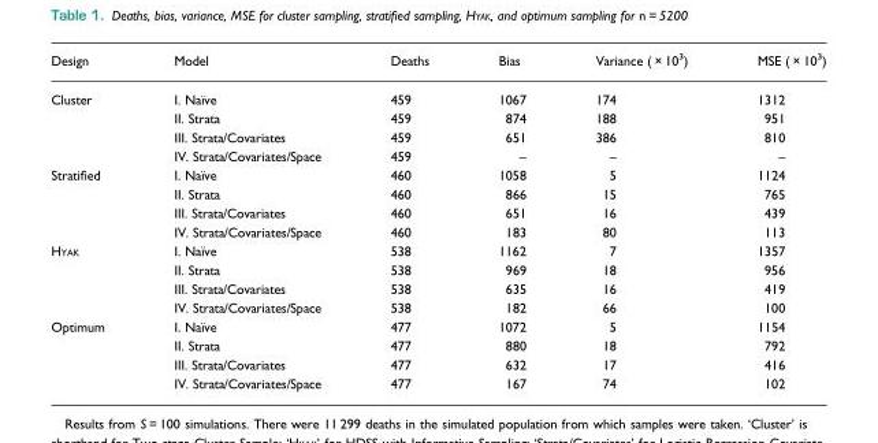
<table><thead><tr><td>Design</td><td>Model</td><td>Deaths</td><td>Bias</td><td>Variance ( × 10<sup>3</sup>)</td><td>MSE ( × 10<sup>3</sup>)</td></tr></thead><tbody><tr><td rowspan="4">Cluster</td><td>I. Naïve</td><td>459</td><td>1067</td><td>174</td><td>1312</td></tr><tr><td>II. Strata</td><td>459</td><td>874</td><td>188</td><td>951</td></tr><tr><td>III. Strata/Covariates</td><td>459</td><td>651</td><td>386</td><td>810</td></tr><tr><td>IV. Strata/Covariates/Space</td><td>459</td><td>–</td><td>–</td><td>–</td></tr><tr><td rowspan="4">Stratified</td><td>I. Naïve</td><td>460</td><td>1058</td><td>5</td><td>1124</td></tr><tr><td>II. Strata</td><td>460</td><td>866</td><td>15</td><td>765</td></tr><tr><td>III. Strata/Covariates</td><td>460</td><td>651</td><td>16</td><td>439</td></tr><tr><td>IV. Strata/Covariates/Space</td><td>460</td><td>183</td><td>80</td><td>113</td></tr><tr><td rowspan="4">HYAK</td><td>I. Naïve</td><td>538</td><td>1162</td><td>7</td><td>1357</td></tr><tr><td>II. Strata</td><td>538</td><td>969</td><td>18</td><td>956</td></tr><tr><td>III. Strata/Covariates</td><td>538</td><td>635</td><td>16</td><td>419</td></tr><tr><td>IV. Strata/Covariates/Space</td><td>538</td><td>182</td><td>66</td><td>100</td></tr><tr><td rowspan="4">Optimum</td><td>I. Naïve</td><td>477</td><td>1072</td><td>5</td><td>1154</td></tr><tr><td>II. Strata</td><td>477</td><td>880</td><td>18</td><td>792</td></tr><tr><td>III. Strata/Covariates</td><td>477</td><td>632</td><td>17</td><td>416</td></tr><tr><td>IV. Strata/Covariates/Space</td><td>477</td><td>167</td><td>74</td><td>102</td></tr></tbody></table>